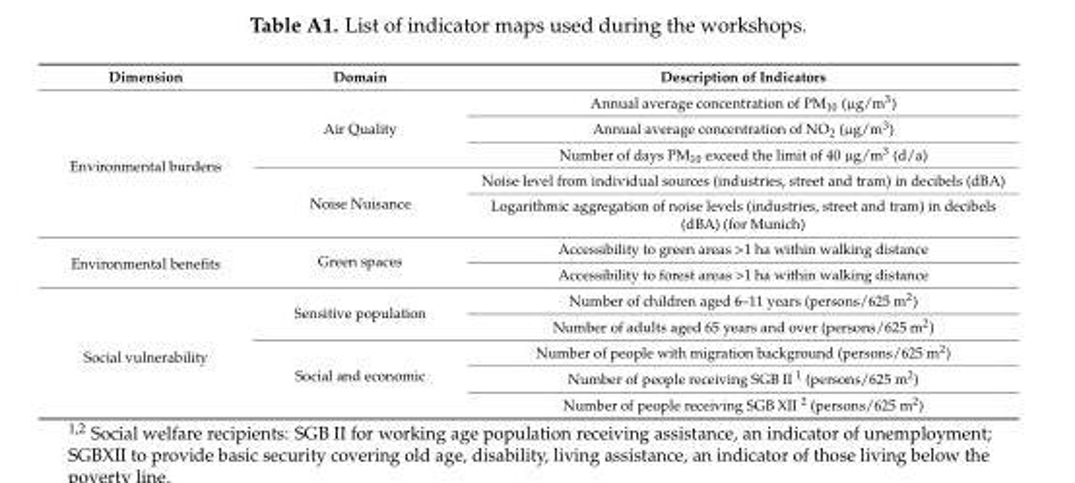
<table><thead><tr><td>Dimension</td><td>Domain</td><td>Description of Indicators</td></tr></thead><tbody><tr><td rowspan="5">Environmental burdens</td><td rowspan="3">Air Quality</td><td>Annual average concentration of PM<sub>10</sub> (µg/m<sup>3</sup>)</td></tr><tr><td>Annual average concentration of NO<sub>2</sub> (µg/m<sup>3</sup>)</td></tr><tr><td>Number of days PM<sub>10</sub> exceed the limit of 40 µg/m<sup>3</sup> (d/a)</td></tr><tr><td rowspan="2">Noise Nuisance</td><td>Noise level from individual sources (industries, street and tram) in decibels (dBA)</td></tr><tr><td>Logarithmic aggregation of noise levels (industries, street and tram) in decibels (dBA) (for Munich)</td></tr><tr><td rowspan="2">Environmental benefits</td><td rowspan="2">Green spaces</td><td>Accessibility to green areas &gt;1 ha within walking distance</td></tr><tr><td>Accessibility to forest areas &gt;1 ha within walking distance</td></tr><tr><td rowspan="5">Social vulnerability</td><td rowspan="2">Sensitive population</td><td>Number of children aged 6–11 years (persons/625 m<sup>2</sup>)</td></tr><tr><td>Number of adults aged 65 years and over (persons/625 m<sup>2</sup>)</td></tr><tr><td rowspan="3">Social and economic</td><td>Number of people with migration background (persons/625 m<sup>2</sup>)</td></tr><tr><td>Number of people receiving SGB II <sup>1</sup> (persons/625 m<sup>2</sup>)</td></tr><tr><td>Number of people receiving SGB XII <sup>2</sup> (persons/625 m<sup>2</sup>)</td></tr></tbody></table>